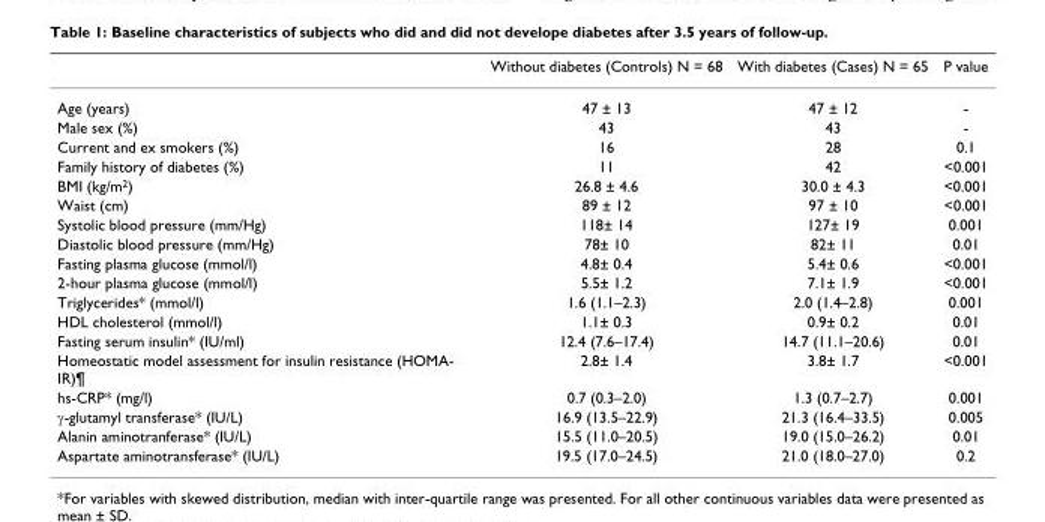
<table><thead><tr><td></td><td>Without diabetes (Controls) N = 68</td><td>With diabetes (Cases) N = 65</td><td>P value</td></tr></thead><tbody><tr><td>Age (years)</td><td>47 ± 13</td><td>47 ± 12</td><td>-</td></tr><tr><td>Male sex (%)</td><td>43</td><td>43</td><td>-</td></tr><tr><td>Current and ex smokers (%)</td><td>16</td><td>28</td><td>0.1</td></tr><tr><td>Family history of diabetes (%)</td><td>11</td><td>42</td><td>&lt;0.001</td></tr><tr><td>BMI (kg/m<sup>2</sup>)</td><td>26.8 ± 4.6</td><td>30.0 ± 4.3</td><td>&lt;0.001</td></tr><tr><td>Waist (cm)</td><td>89 ± 12</td><td>97 ± 10</td><td>&lt;0.001</td></tr><tr><td>Systolic blood pressure (mm/Hg)</td><td>118± 14</td><td>127± 19</td><td>0.001</td></tr><tr><td>Diastolic blood pressure (mm/Hg)</td><td>78± 10</td><td>82± 11</td><td>0.01</td></tr><tr><td>Fasting plasma glucose (mmol/l)</td><td>4.8± 0.4</td><td>5.4± 0.6</td><td>&lt;0.001</td></tr><tr><td>2-hour plasma glucose (mmol/l)</td><td>5.5± 1.2</td><td>7.1± 1.9</td><td>&lt;0.001</td></tr><tr><td>Triglycerides* (mmol/l)</td><td>1.6 (1.1–2.3)</td><td>2.0 (1.4–2.8)</td><td>0.001</td></tr><tr><td>HDL cholesterol (mmol/l)</td><td>1.1± 0.3</td><td>0.9± 0.2</td><td>0.01</td></tr><tr><td>Fasting serum insulin* (IU/ml)</td><td>12.4 (7.6–17.4)</td><td>14.7 (11.1–20.6)</td><td>0.01</td></tr><tr><td>Homeostatic model assessment for insulin resistance (HOMA- IR)¶</td><td>2.8± 1.4</td><td>3.8± 1.7</td><td>&lt;0.001</td></tr><tr><td>hs-CRP* (mg/l)</td><td>0.7 (0.3–2.0)</td><td>1.3 (0.7–2.7)</td><td>0.001</td></tr><tr><td>γ-glutamyl transferase* (IU/L)</td><td>16.9 (13.5–22.9)</td><td>21.3 (16.4–33.5)</td><td>0.005</td></tr><tr><td>Alanin aminotranferase* (IU/L)</td><td>15.5 (11.0–20.5)</td><td>19.0 (15.0–26.2)</td><td>0.01</td></tr><tr><td>Aspartate aminotransferase* (IU/L)</td><td>19.5 (17.0–24.5)</td><td>21.0 (18.0–27.0)</td><td>0.2</td></tr></tbody></table>